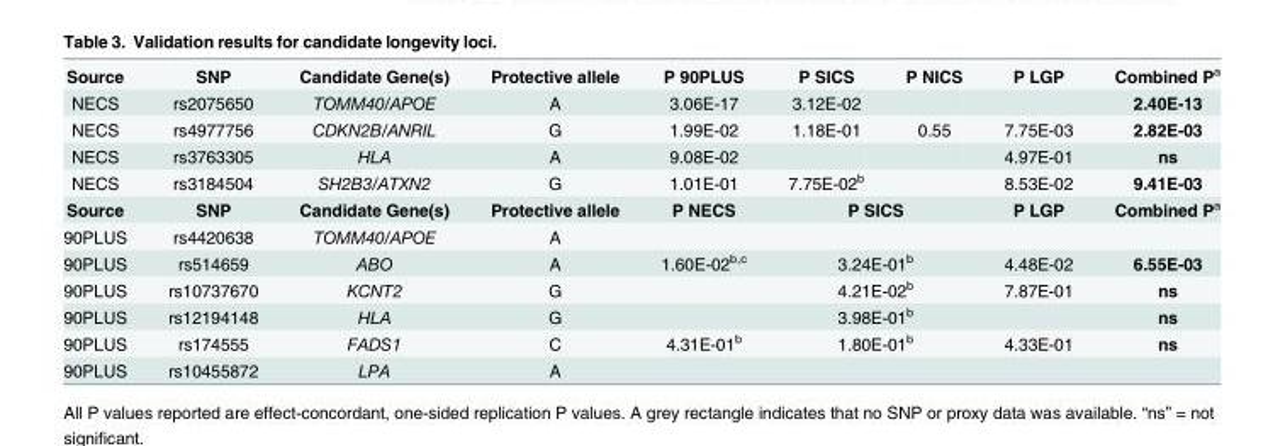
<table><tbody><tr><td>Source</td><td>SNP</td><td>Candidate Gene(s)</td><td>Protective allele</td><td>P 90PLUS</td><td>P SICS</td><td>P NICS</td><td>P LGP</td><td>Combined P<sup>a</sup></td></tr><tr><td>NECS</td><td>rs2075650</td><td>TOMM40/APOE</td><td>A</td><td>3.06E-17</td><td>3.12E-02</td><td></td><td></td><td>2.40E-13</td></tr><tr><td>NECS</td><td>rs4977756</td><td>CDKN2B/ANRIL</td><td>G</td><td>1.99E-02</td><td>1.18E-01</td><td>0.55</td><td>7.75E-03</td><td>2.82E-03</td></tr><tr><td>NECS</td><td>rs3763305</td><td>HLA</td><td>A</td><td>9.08E-02</td><td></td><td></td><td>4.97E-01</td><td>ns</td></tr><tr><td>NECS</td><td>rs3184504</td><td>SH2B3/ATXN2</td><td>G</td><td>1.01E-01</td><td>7.75E-02<sup>b</sup></td><td></td><td>8.53E-02</td><td>9.41E-03</td></tr><tr><td>Source</td><td>SNP</td><td>Candidate Gene(s)</td><td>Protective allele</td><td>P NECS</td><td colspan="2">P SICS</td><td>P LGP</td><td>Combined P<sup>a</sup></td></tr><tr><td>90PLUS</td><td>rs4420638</td><td>TOMM40/APOE</td><td>A</td><td></td><td colspan="2"></td><td></td><td></td></tr><tr><td>90PLUS</td><td>rs514659</td><td>ABO</td><td>A</td><td>1.60E-02<sup>b,c</sup></td><td colspan="2">3.24E-01<sup>b</sup></td><td>4.48E-02</td><td>6.55E-03</td></tr><tr><td>90PLUS</td><td>rs10737670</td><td>KCNT2</td><td>G</td><td></td><td colspan="2">4.21E-02<sup>b</sup></td><td>7.87E-01</td><td>ns</td></tr><tr><td>90PLUS</td><td>rs12194148</td><td>HLA</td><td>G</td><td></td><td colspan="2">3.98E-01<sup>b</sup></td><td></td><td>ns</td></tr><tr><td>90PLUS</td><td>rs174555</td><td>FADS1</td><td>C</td><td>4.31E-01<sup>b</sup></td><td colspan="2">1.80E-01<sup>b</sup></td><td>4.33E-01</td><td>ns</td></tr><tr><td>90PLUS</td><td>rs10455872</td><td>LPA</td><td>A</td><td></td><td colspan="2"></td><td></td><td></td></tr></tbody></table>